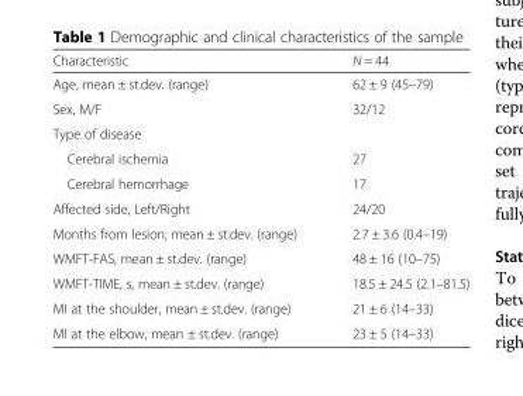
<table><thead><tr><td>Characteristic</td><td>N = 44</td></tr></thead><tbody><tr><td>Age, mean ± st.dev. (range)</td><td>62 ± 9 (45–79)</td></tr><tr><td>Sex, M/F</td><td>32/12</td></tr><tr><td colspan="2">Type of disease</td></tr><tr><td>Cerebral ischemia</td><td>27</td></tr><tr><td>Cerebral hemorrhage</td><td>17</td></tr><tr><td>Affected side, Left/Right</td><td>24/20</td></tr><tr><td>Months from lesion, mean ± st.dev. (range)</td><td>2.7 ± 3.6 (0.4–19)</td></tr><tr><td>WMFT-FAS, mean ± st.dev. (range)</td><td>48 ± 16 (10–75)</td></tr><tr><td>WMFT-TIME, s, mean ± st.dev. (range)</td><td>18.5 ± 24.5 (2.1–81.5)</td></tr><tr><td>MI at the shoulder, mean ± st.dev. (range)</td><td>21 ± 6 (14–33)</td></tr><tr><td>MI at the elbow, mean ± st.dev. (range)</td><td>23 ± 5 (14–33)</td></tr></tbody></table>